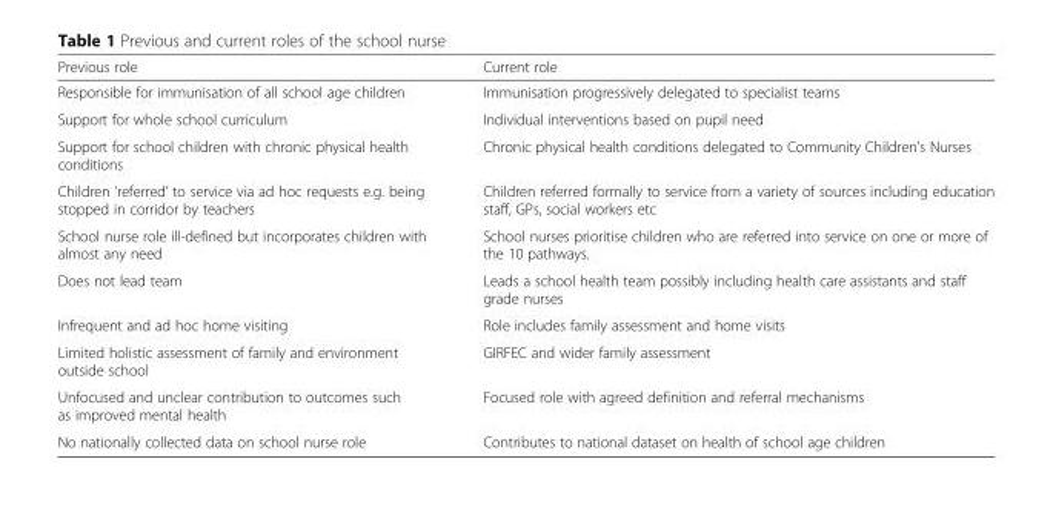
<table><thead><tr><td>Previous role</td><td>Current role</td></tr></thead><tbody><tr><td>Responsible for immunisation of all school age children</td><td>Immunisation progressively delegated to specialist teams</td></tr><tr><td>Support for whole school curriculum</td><td>Individual interventions based on pupil need</td></tr><tr><td>Support for school children with chronic physical health conditions</td><td>Chronic physical health conditions delegated to Community Children’s Nurses</td></tr><tr><td>Children ‘referred’ to service via ad hoc requests e.g. being stopped in corridor by teachers</td><td>Children referred formally to service from a variety of sources including education staff, GPs, social workers etc</td></tr><tr><td>School nurse role ill-defined but incorporates children with almost any need</td><td>School nurses prioritise children who are referred into service on one or more of the 10 pathways.</td></tr><tr><td>Does not lead team</td><td>Leads a school health team possibly including health care assistants and staff grade nurses</td></tr><tr><td>Infrequent and ad hoc home visiting</td><td>Role includes family assessment and home visits</td></tr><tr><td>Limited holistic assessment of family and environment outside school</td><td>GIRFEC and wider family assessment</td></tr><tr><td>Unfocused and unclear contribution to outcomes such as improved mental health</td><td>Focused role with agreed definition and referral mechanisms</td></tr><tr><td>No nationally collected data on school nurse role</td><td>Contributes to national dataset on health of school age children</td></tr></tbody></table>